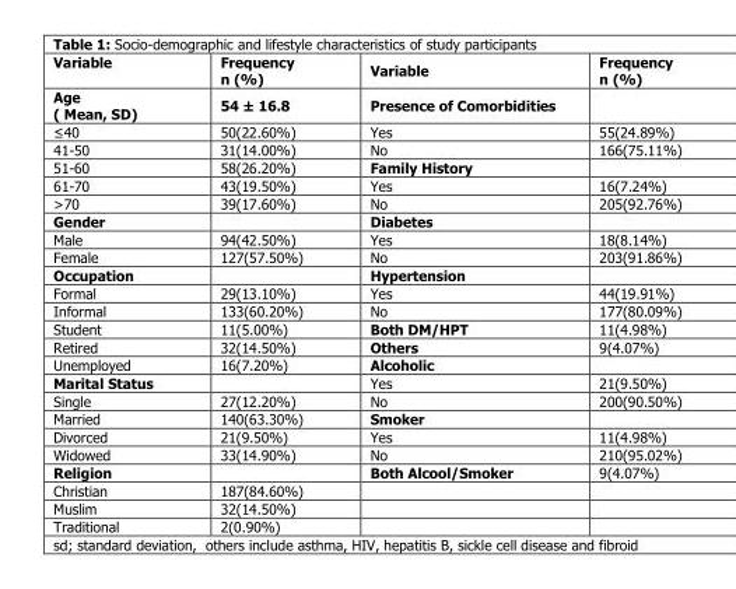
<table><thead><tr><td>Variable</td><td>Frequency n (%)</td><td>Variable</td><td>Frequency n (%)</td></tr></thead><tbody><tr><td>Age ( Mean, SD)</td><td>54 ± 16.8</td><td>Presence of Comorbidities</td><td></td></tr><tr><td>≤40</td><td>50(22.60%)</td><td>Yes</td><td>55(24.89%)</td></tr><tr><td>41-50</td><td>31(14.00%)</td><td>No</td><td>166(75.11%)</td></tr><tr><td>51-60</td><td>58(26.20%)</td><td>Family History</td><td></td></tr><tr><td>61-70</td><td>43(19.50%)</td><td>Yes</td><td>16(7.24%)</td></tr><tr><td>&gt;70</td><td>39(17.60%)</td><td>No</td><td>205(92.76%)</td></tr><tr><td>Gender</td><td></td><td>Diabetes</td><td></td></tr><tr><td>Male</td><td>94(42.50%)</td><td>Yes</td><td>18(8.14%)</td></tr><tr><td>Female</td><td>127(57.50%)</td><td>No</td><td>203(91.86%)</td></tr><tr><td>Occupation</td><td></td><td>Hypertension</td><td></td></tr><tr><td>Formal</td><td>29(13.10%)</td><td>Yes</td><td>44(19.91%)</td></tr><tr><td>Informal</td><td>133(60.20%)</td><td>No</td><td>177(80.09%)</td></tr><tr><td>Student</td><td>11(5.00%)</td><td>Both DM/HPT</td><td>11(4.98%)</td></tr><tr><td>Retired</td><td>32(14.50%)</td><td>Others</td><td>9(4.07%)</td></tr><tr><td>Unemployed</td><td>16(7.20%)</td><td>Alcoholic</td><td></td></tr><tr><td>Marital Status</td><td></td><td>Yes</td><td>21(9.50%)</td></tr><tr><td>Single</td><td>27(12.20%)</td><td>No</td><td>200(90.50%)</td></tr><tr><td>Married</td><td>140(63.30%)</td><td>Smoker</td><td></td></tr><tr><td>Divorced</td><td>21(9.50%)</td><td>Yes</td><td>11(4.98%)</td></tr><tr><td>Widowed</td><td>33(14.90%)</td><td>No</td><td>210(95.02%)</td></tr><tr><td>Religion</td><td></td><td>Both Alcool/Smoker</td><td>9(4.07%)</td></tr><tr><td>Christian</td><td>187(84.60%)</td><td></td><td></td></tr><tr><td>Muslim</td><td>32(14.50%)</td><td></td><td></td></tr><tr><td>Traditional</td><td>2(0.90%)</td><td></td><td></td></tr></tbody></table>